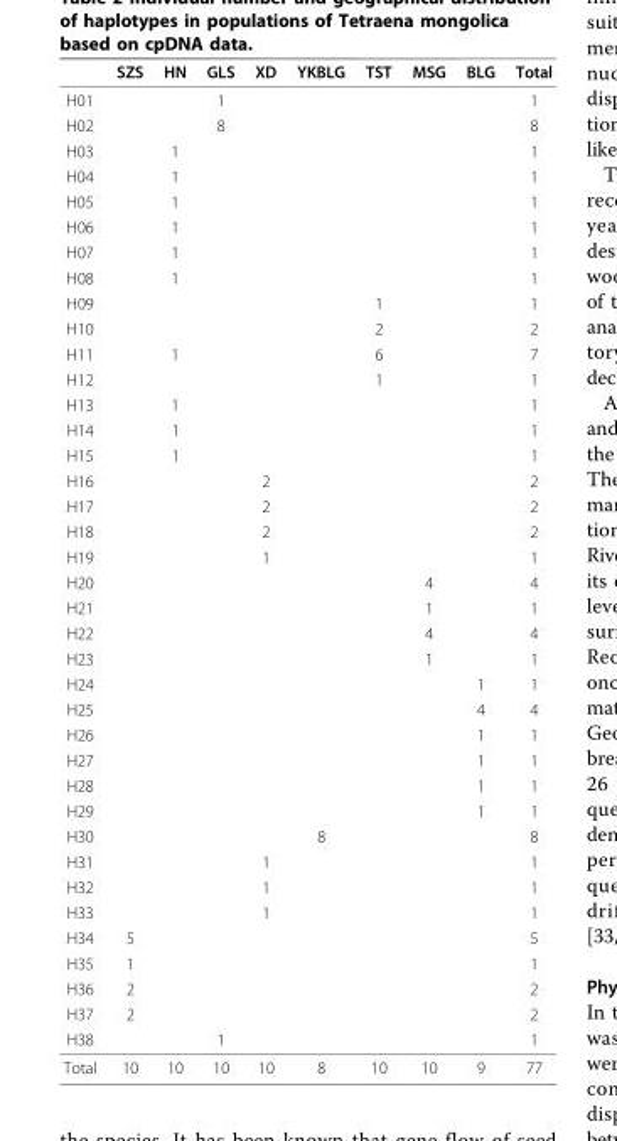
<table><thead><tr><td></td><td>SZS</td><td>HN</td><td>GLS</td><td>XD</td><td>YKBLG</td><td>TST</td><td>MSG</td><td>BLG</td><td>Total</td></tr></thead><tbody><tr><td>H01</td><td></td><td></td><td>1</td><td></td><td></td><td></td><td></td><td></td><td>1</td></tr><tr><td>H02</td><td></td><td></td><td>8</td><td></td><td></td><td></td><td></td><td></td><td>8</td></tr><tr><td>H03</td><td></td><td>1</td><td></td><td></td><td></td><td></td><td></td><td></td><td>1</td></tr><tr><td>H04</td><td></td><td>1</td><td></td><td></td><td></td><td></td><td></td><td></td><td>1</td></tr><tr><td>H05</td><td></td><td>1</td><td></td><td></td><td></td><td></td><td></td><td></td><td>1</td></tr><tr><td>H06</td><td></td><td>1</td><td></td><td></td><td></td><td></td><td></td><td></td><td>1</td></tr><tr><td>H07</td><td></td><td>1</td><td></td><td></td><td></td><td></td><td></td><td></td><td>1</td></tr><tr><td>H08</td><td></td><td>1</td><td></td><td></td><td></td><td></td><td></td><td></td><td>1</td></tr><tr><td>H09</td><td></td><td></td><td></td><td></td><td></td><td>1</td><td></td><td></td><td>1</td></tr><tr><td>H10</td><td></td><td></td><td></td><td></td><td></td><td>2</td><td></td><td></td><td>2</td></tr><tr><td>H11</td><td></td><td>1</td><td></td><td></td><td></td><td>6</td><td></td><td></td><td>7</td></tr><tr><td>H12</td><td></td><td></td><td></td><td></td><td></td><td>1</td><td></td><td></td><td>1</td></tr><tr><td>H13</td><td></td><td>1</td><td></td><td></td><td></td><td></td><td></td><td></td><td>1</td></tr><tr><td>H14</td><td></td><td>1</td><td></td><td></td><td></td><td></td><td></td><td></td><td>1</td></tr><tr><td>H15</td><td></td><td>1</td><td></td><td></td><td></td><td></td><td></td><td></td><td>1</td></tr><tr><td>H16</td><td></td><td></td><td></td><td>2</td><td></td><td></td><td></td><td></td><td>2</td></tr><tr><td>H17</td><td></td><td></td><td></td><td>2</td><td></td><td></td><td></td><td></td><td>2</td></tr><tr><td>H18</td><td></td><td></td><td></td><td>2</td><td></td><td></td><td></td><td></td><td>2</td></tr><tr><td>H19</td><td></td><td></td><td></td><td>1</td><td></td><td></td><td></td><td></td><td>1</td></tr><tr><td>H20</td><td></td><td></td><td></td><td></td><td></td><td></td><td>4</td><td></td><td>4</td></tr><tr><td>H21</td><td></td><td></td><td></td><td></td><td></td><td></td><td>1</td><td></td><td>1</td></tr><tr><td>H22</td><td></td><td></td><td></td><td></td><td></td><td></td><td>4</td><td></td><td>4</td></tr><tr><td>H23</td><td></td><td></td><td></td><td></td><td></td><td></td><td>1</td><td></td><td>1</td></tr><tr><td>H24</td><td></td><td></td><td></td><td></td><td></td><td></td><td></td><td>1</td><td>1</td></tr><tr><td>H25</td><td></td><td></td><td></td><td></td><td></td><td></td><td></td><td>4</td><td>4</td></tr><tr><td>H26</td><td></td><td></td><td></td><td></td><td></td><td></td><td></td><td>1</td><td>1</td></tr><tr><td>H27</td><td></td><td></td><td></td><td></td><td></td><td></td><td></td><td>1</td><td>1</td></tr><tr><td>H28</td><td></td><td></td><td></td><td></td><td></td><td></td><td></td><td>1</td><td>1</td></tr><tr><td>H29</td><td></td><td></td><td></td><td></td><td></td><td></td><td></td><td>1</td><td>1</td></tr><tr><td>H30</td><td></td><td></td><td></td><td></td><td>8</td><td></td><td></td><td></td><td>8</td></tr><tr><td>H31</td><td></td><td></td><td></td><td>1</td><td></td><td></td><td></td><td></td><td>1</td></tr><tr><td>H32</td><td></td><td></td><td></td><td>1</td><td></td><td></td><td></td><td></td><td>1</td></tr><tr><td>H33</td><td></td><td></td><td></td><td>1</td><td></td><td></td><td></td><td></td><td>1</td></tr><tr><td>H34</td><td>5</td><td></td><td></td><td></td><td></td><td></td><td></td><td></td><td>5</td></tr><tr><td>H35</td><td>1</td><td></td><td></td><td></td><td></td><td></td><td></td><td></td><td>1</td></tr><tr><td>H36</td><td>2</td><td></td><td></td><td></td><td></td><td></td><td></td><td></td><td>2</td></tr><tr><td>H37</td><td>2</td><td></td><td></td><td></td><td></td><td></td><td></td><td></td><td>2</td></tr><tr><td>H38</td><td></td><td></td><td>1</td><td></td><td></td><td></td><td></td><td></td><td>1</td></tr><tr><td>Total</td><td>10</td><td>10</td><td>10</td><td>10</td><td>8</td><td>10</td><td>10</td><td>9</td><td>77</td></tr></tbody></table>